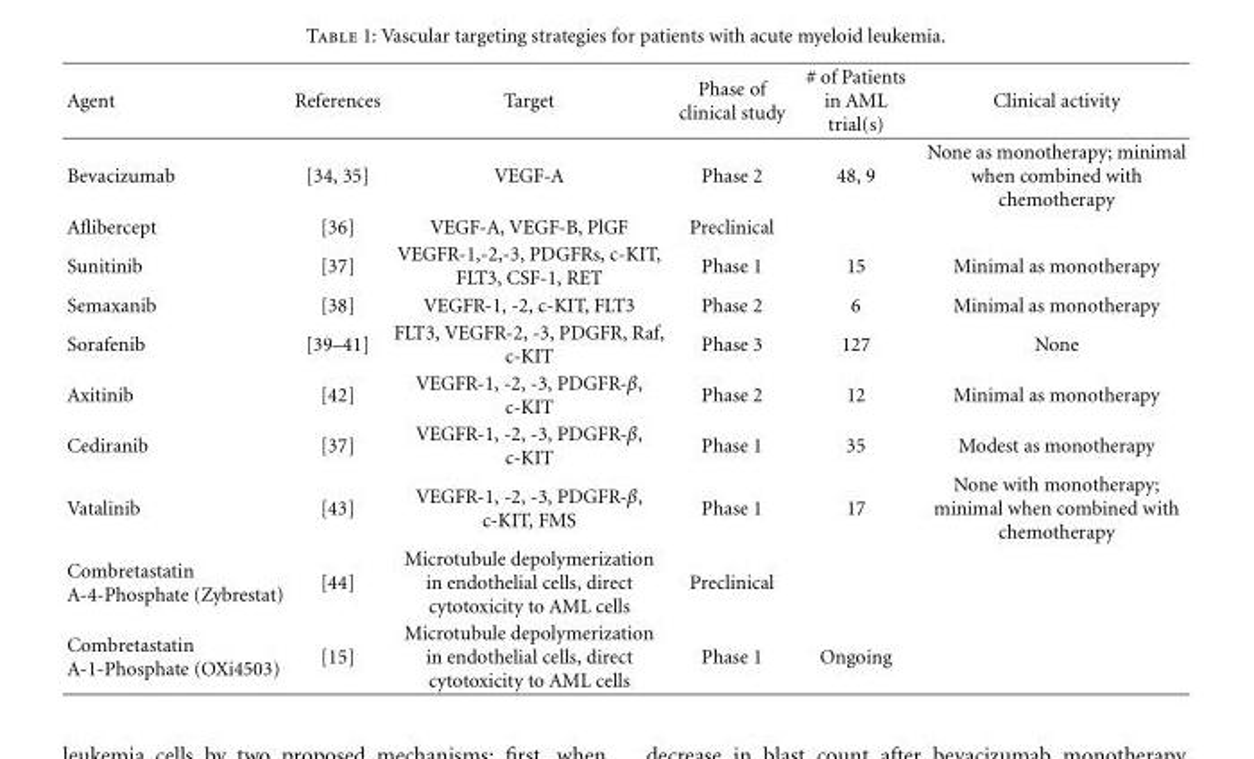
<table><thead><tr><td>Agent</td><td>References</td><td>Target</td><td>Phase of clinical study</td><td># of Patients in AML trial(s)</td><td>Clinical activity</td></tr></thead><tbody><tr><td>Bevacizumab</td><td>[34, 35]</td><td>VEGF-A</td><td>Phase 2</td><td>48, 9</td><td>None as monotherapy; minimal when combined with chemotherapy</td></tr><tr><td>Aflibercept</td><td>[36]</td><td>VEGF-A, VEGF-B, PlGF</td><td>Preclinical</td><td></td><td></td></tr><tr><td>Sunitinib</td><td>[37]</td><td>VEGFR-1,-2,-3, PDGFRs, c-KIT, FLT3, CSF-1, RET</td><td>Phase 1</td><td>15</td><td>Minimal as monotherapy</td></tr><tr><td>Semaxanib</td><td>[38]</td><td>VEGFR-1, -2, c-KIT, FLT3</td><td>Phase 2</td><td>6</td><td>Minimal as monotherapy</td></tr><tr><td>Sorafenib</td><td>[39–41]</td><td>FLT3, VEGFR-2, -3, PDGFR, Raf, c-KIT</td><td>Phase 3</td><td>127</td><td>None</td></tr><tr><td>Axitinib</td><td>[42]</td><td>VEGFR-1, -2, -3, PDGFR-β, c-KIT</td><td>Phase 2</td><td>12</td><td>Minimal as monotherapy</td></tr><tr><td>Cediranib</td><td>[37]</td><td>VEGFR-1, -2, -3, PDGFR-β, c-KIT</td><td>Phase 1</td><td>35</td><td>Modest as monotherapy</td></tr><tr><td>Vatalinib</td><td>[43]</td><td>VEGFR-1, -2, -3, PDGFR-β, c-KIT, FMS</td><td>Phase 1</td><td>17</td><td>None with monotherapy; minimal when combined with chemotherapy</td></tr><tr><td>Combretastatin A-4-Phosphate (Zybrestat)</td><td>[44]</td><td>Microtubule depolymerization in endothelial cells, direct cytotoxicity to AML cells</td><td>Preclinical</td><td></td><td></td></tr><tr><td>Combretastatin A-1-Phosphate (OXi4503)</td><td>[15]</td><td>Microtubule depolymerization in endothelial cells, direct cytotoxicity to AML cells</td><td>Phase 1</td><td>Ongoing</td><td></td></tr></tbody></table>